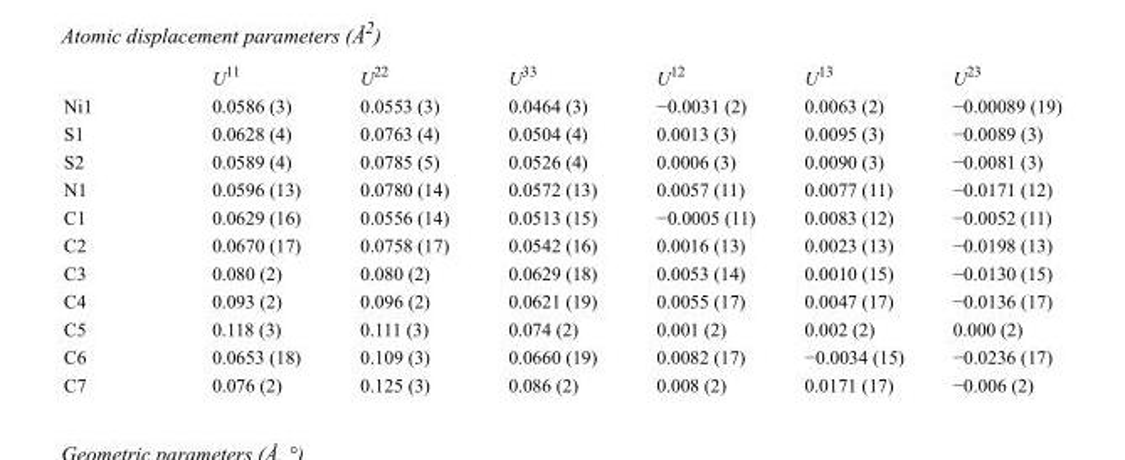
<table><thead><tr><td></td><td>U<sup>11</sup></td><td>U<sup>22</sup></td><td>U<sup>33</sup></td><td>U<sup>12</sup></td><td>U<sup>13</sup></td><td>U<sup>23</sup></td></tr></thead><tbody><tr><td>Ni1</td><td>0.0586 (3)</td><td>0.0553 (3)</td><td>0.0464 (3)</td><td>−0.0031 (2)</td><td>0.0063 (2)</td><td>−0.00089 (19)</td></tr><tr><td>S1</td><td>0.0628 (4)</td><td>0.0763 (4)</td><td>0.0504 (4)</td><td>0.0013 (3)</td><td>0.0095 (3)</td><td>−0.0089 (3)</td></tr><tr><td>S2</td><td>0.0589 (4)</td><td>0.0785 (5)</td><td>0.0526 (4)</td><td>0.0006 (3)</td><td>0.0090 (3)</td><td>−0.0081 (3)</td></tr><tr><td>N1</td><td>0.0596 (13)</td><td>0.0780 (14)</td><td>0.0572 (13)</td><td>0.0057 (11)</td><td>0.0077 (11)</td><td>−0.0171 (12)</td></tr><tr><td>C1</td><td>0.0629 (16)</td><td>0.0556 (14)</td><td>0.0513 (15)</td><td>−0.0005 (11)</td><td>0.0083 (12)</td><td>−0.0052 (11)</td></tr><tr><td>C2</td><td>0.0670 (17)</td><td>0.0758 (17)</td><td>0.0542 (16)</td><td>0.0016 (13)</td><td>0.0023 (13)</td><td>−0.0198 (13)</td></tr><tr><td>C3</td><td>0.080 (2)</td><td>0.080 (2)</td><td>0.0629 (18)</td><td>0.0053 (14)</td><td>0.0010 (15)</td><td>−0.0130 (15)</td></tr><tr><td>C4</td><td>0.093 (2)</td><td>0.096 (2)</td><td>0.0621 (19)</td><td>0.0055 (17)</td><td>0.0047 (17)</td><td>−0.0136 (17)</td></tr><tr><td>C5</td><td>0.118 (3)</td><td>0.111 (3)</td><td>0.074 (2)</td><td>0.001 (2)</td><td>0.002 (2)</td><td>0.000 (2)</td></tr><tr><td>C6</td><td>0.0653 (18)</td><td>0.109 (3)</td><td>0.0660 (19)</td><td>0.0082 (17)</td><td>−0.0034 (15)</td><td>−0.0236 (17)</td></tr><tr><td>C7</td><td>0.076 (2)</td><td>0.125 (3)</td><td>0.086 (2)</td><td>0.008 (2)</td><td>0.0171 (17)</td><td>−0.006 (2)</td></tr></tbody></table>